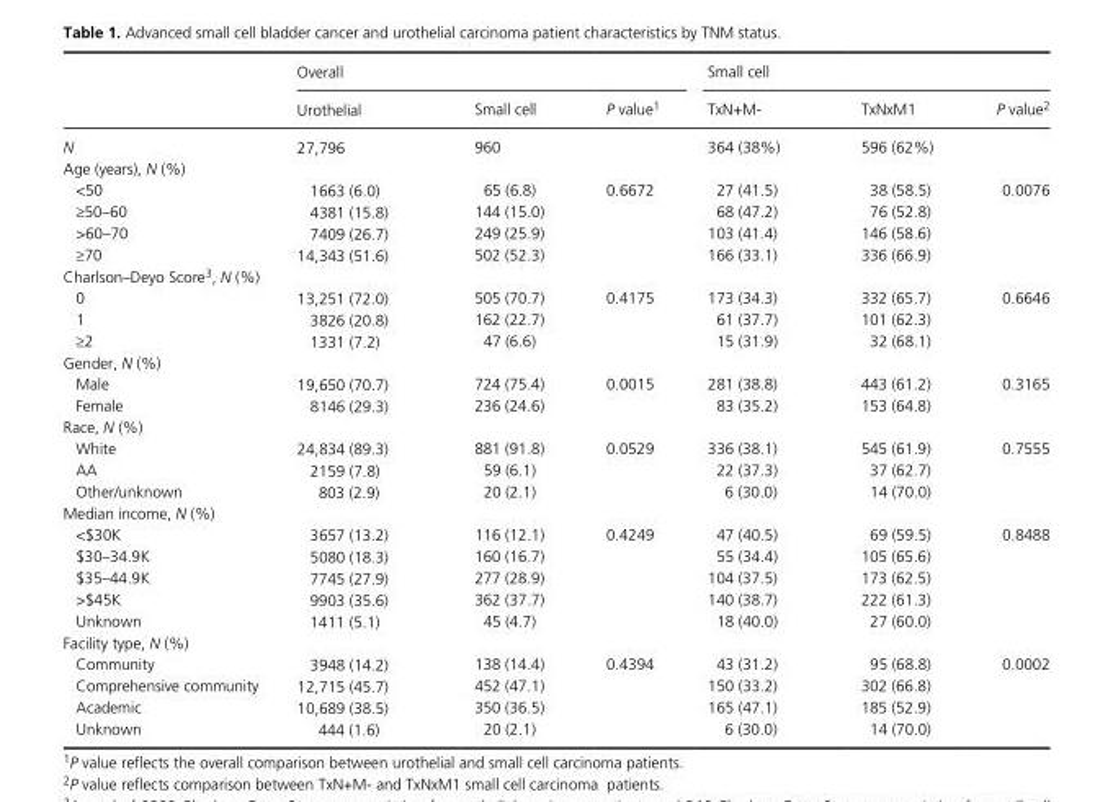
<table><thead><tr><td rowspan="2"></td><td colspan="3">Overall</td><td colspan="3">Small cell</td></tr><tr><td>Urothelial</td><td>Small cell</td><td>P value1</td><td>TxN+M-</td><td>TxNxM1</td><td>P value2</td></tr></thead><tbody><tr><td>N</td><td>27,796</td><td>960</td><td></td><td>364 (38%)</td><td>596 (62%)</td><td></td></tr><tr><td colspan="7">Age (years), N (%)</td></tr><tr><td>&lt;50</td><td>1663 (6.0)</td><td>65 (6.8)</td><td rowspan="4">0.6672</td><td>27 (41.5)</td><td>38 (58.5)</td><td rowspan="4">0.0076</td></tr><tr><td>≥50–60</td><td>4381 (15.8)</td><td>144 (15.0)</td><td>68 (47.2)</td><td>76 (52.8)</td></tr><tr><td>&gt;60–70</td><td>7409 (26.7)</td><td>249 (25.9)</td><td>103 (41.4)</td><td>146 (58.6)</td></tr><tr><td>≥70</td><td>14,343 (51.6)</td><td>502 (52.3)</td><td>166 (33.1)</td><td>336 (66.9)</td></tr><tr><td colspan="7">Charlson–Deyo Score3, N (%)</td></tr><tr><td>0</td><td>13,251 (72.0)</td><td>505 (70.7)</td><td rowspan="3">0.4175</td><td>173 (34.3)</td><td>332 (65.7)</td><td rowspan="3">0.6646</td></tr><tr><td>1</td><td>3826 (20.8)</td><td>162 (22.7)</td><td>61 (37.7)</td><td>101 (62.3)</td></tr><tr><td>≥2</td><td>1331 (7.2)</td><td>47 (6.6)</td><td>15 (31.9)</td><td>32 (68.1)</td></tr><tr><td colspan="7">Gender, N (%)</td></tr><tr><td>Male</td><td>19,650 (70.7)</td><td>724 (75.4)</td><td rowspan="2">0.0015</td><td>281 (38.8)</td><td>443 (61.2)</td><td rowspan="2">0.3165</td></tr><tr><td>Female</td><td>8146 (29.3)</td><td>236 (24.6)</td><td>83 (35.2)</td><td>153 (64.8)</td></tr><tr><td colspan="7">Race, N (%)</td></tr><tr><td>White</td><td>24,834 (89.3)</td><td>881 (91.8)</td><td rowspan="3">0.0529</td><td>336 (38.1)</td><td>545 (61.9)</td><td rowspan="3">0.7555</td></tr><tr><td>AA</td><td>2159 (7.8)</td><td>59 (6.1)</td><td>22 (37.3)</td><td>37 (62.7)</td></tr><tr><td>Other/unknown</td><td>803 (2.9)</td><td>20 (2.1)</td><td>6 (30.0)</td><td>14 (70.0)</td></tr><tr><td colspan="7">Median income, N (%)</td></tr><tr><td>&lt;$30K</td><td>3657 (13.2)</td><td>116 (12.1)</td><td rowspan="5">0.4249</td><td>47 (40.5)</td><td>69 (59.5)</td><td rowspan="5">0.8488</td></tr><tr><td>$30–34.9K</td><td>5080 (18.3)</td><td>160 (16.7)</td><td>55 (34.4)</td><td>105 (65.6)</td></tr><tr><td>$35–44.9K</td><td>7745 (27.9)</td><td>277 (28.9)</td><td>104 (37.5)</td><td>173 (62.5)</td></tr><tr><td>&gt;$45K</td><td>9903 (35.6)</td><td>362 (37.7)</td><td>140 (38.7)</td><td>222 (61.3)</td></tr><tr><td>Unknown</td><td>1411 (5.1)</td><td>45 (4.7)</td><td>18 (40.0)</td><td>27 (60.0)</td></tr><tr><td colspan="7">Facility type, N (%)</td></tr><tr><td>Community</td><td>3948 (14.2)</td><td>138 (14.4)</td><td rowspan="4">0.4394</td><td>43 (31.2)</td><td>95 (68.8)</td><td rowspan="4">0.0002</td></tr><tr><td>Comprehensive community</td><td>12,715 (45.7)</td><td>452 (47.1)</td><td>150 (33.2)</td><td>302 (66.8)</td></tr><tr><td>Academic</td><td>10,689 (38.5)</td><td>350 (36.5)</td><td>165 (47.1)</td><td>185 (52.9)</td></tr><tr><td>Unknown</td><td>444 (1.6)</td><td>20 (2.1)</td><td>6 (30.0)</td><td>14 (70.0)</td></tr></tbody></table>